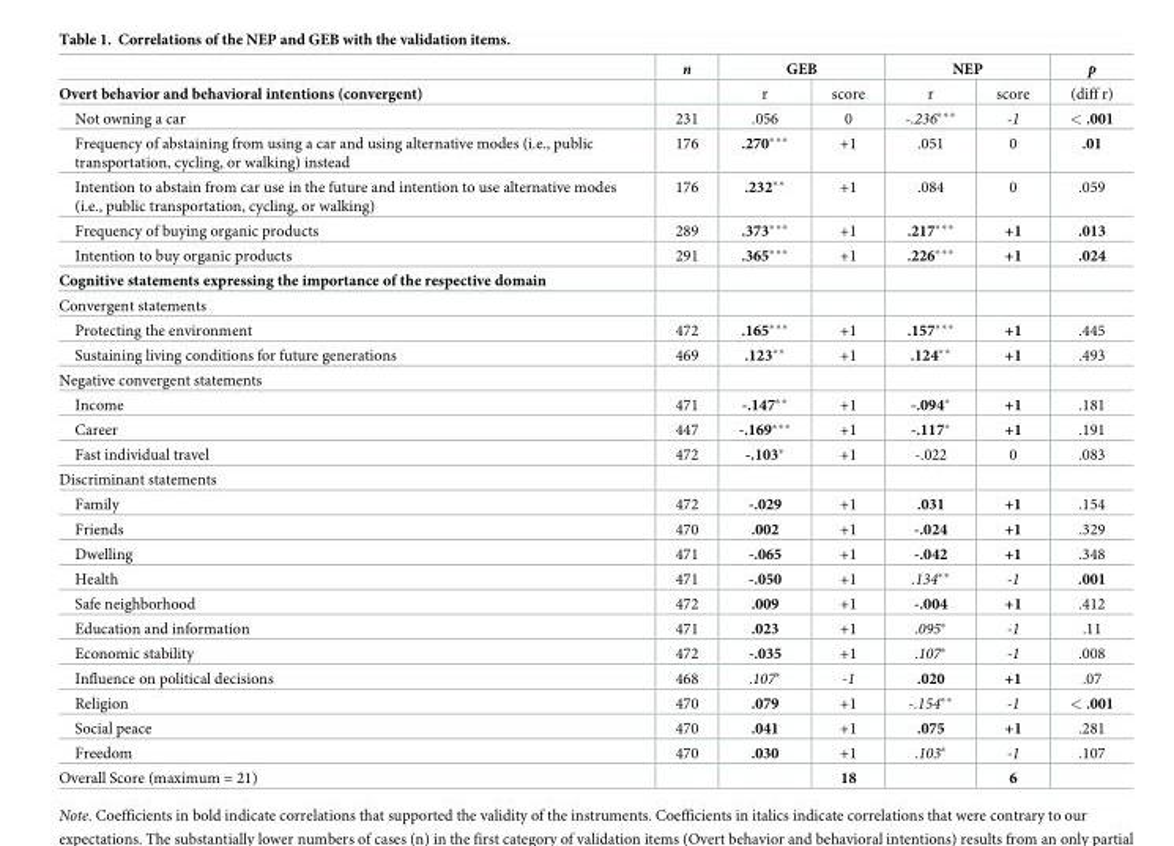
<table><thead><tr><td rowspan="2">Overt behavior and behavioral intentions (convergent)</td><td rowspan="2">n</td><td colspan="2">GEB</td><td colspan="2">NEP</td><td rowspan="2">p (diff r)</td></tr><tr><td>r</td><td>score</td><td>r</td><td>score</td></tr></thead><tbody><tr><td>Not owning a car</td><td>231</td><td>.056</td><td>0</td><td>-.236***</td><td>-1</td><td>&lt; .001</td></tr><tr><td>Frequency of abstaining from using a car and using alternative modes (i.e., public transportation, cycling, or walking) instead</td><td>176</td><td>.270***</td><td>+1</td><td>.051</td><td>0</td><td>.01</td></tr><tr><td>Intention to abstain from car use in the future and intention to use alternative modes (i.e., public transportation, cycling, or walking)</td><td>176</td><td>.232**</td><td>+1</td><td>.084</td><td>0</td><td>.059</td></tr><tr><td>Frequency of buying organic products</td><td>289</td><td>.373***</td><td>+1</td><td>.217***</td><td>+1</td><td>.013</td></tr><tr><td>Intention to buy organic products</td><td>291</td><td>.365***</td><td>+1</td><td>.226***</td><td>+1</td><td>.024</td></tr><tr><td colspan="7">Cognitive statements expressing the importance of the respective domain</td></tr><tr><td colspan="7">Convergent statements</td></tr><tr><td>Protecting the environment</td><td>472</td><td>.165***</td><td>+1</td><td>.157***</td><td>+1</td><td>.445</td></tr><tr><td>Sustaining living conditions for future generations</td><td>469</td><td>.123**</td><td>+1</td><td>.124**</td><td>+1</td><td>.493</td></tr><tr><td colspan="7">Negative convergent statements</td></tr><tr><td>Income</td><td>471</td><td>-.147**</td><td>+1</td><td>-.094*</td><td>+1</td><td>.181</td></tr><tr><td>Career</td><td>447</td><td>-.169***</td><td>+1</td><td>-.117*</td><td>+1</td><td>.191</td></tr><tr><td>Fast individual travel</td><td>472</td><td>-.103*</td><td>+1</td><td>-.022</td><td>0</td><td>.083</td></tr><tr><td colspan="7">Discriminant statements</td></tr><tr><td>Family</td><td>472</td><td>-.029</td><td>+1</td><td>.031</td><td>+1</td><td>.154</td></tr><tr><td>Friends</td><td>470</td><td>.002</td><td>+1</td><td>-.024</td><td>+1</td><td>.329</td></tr><tr><td>Dwelling</td><td>471</td><td>-.065</td><td>+1</td><td>-.042</td><td>+1</td><td>.348</td></tr><tr><td>Health</td><td>471</td><td>-.050</td><td>+1</td><td>.134**</td><td>-1</td><td>.001</td></tr><tr><td>Safe neighborhood</td><td>472</td><td>.009</td><td>+1</td><td>-.004</td><td>+1</td><td>.412</td></tr><tr><td>Education and information</td><td>471</td><td>.023</td><td>+1</td><td>.095*</td><td>-1</td><td>.11</td></tr><tr><td>Economic stability</td><td>472</td><td>-.035</td><td>+1</td><td>.107*</td><td>-1</td><td>.008</td></tr><tr><td>Influence on political decisions</td><td>468</td><td>.107*</td><td>-1</td><td>.020</td><td>+1</td><td>.07</td></tr><tr><td>Religion</td><td>470</td><td>.079</td><td>+1</td><td>-.154**</td><td>-1</td><td>&lt; .001</td></tr><tr><td>Social peace</td><td>470</td><td>.041</td><td>+1</td><td>.075</td><td>+1</td><td>.281</td></tr><tr><td>Freedom</td><td>470</td><td>.030</td><td>+1</td><td>.103*</td><td>-1</td><td>.107</td></tr><tr><td>Overall Score (maximum = 21)</td><td></td><td></td><td>18</td><td></td><td>6</td><td></td></tr></tbody></table>